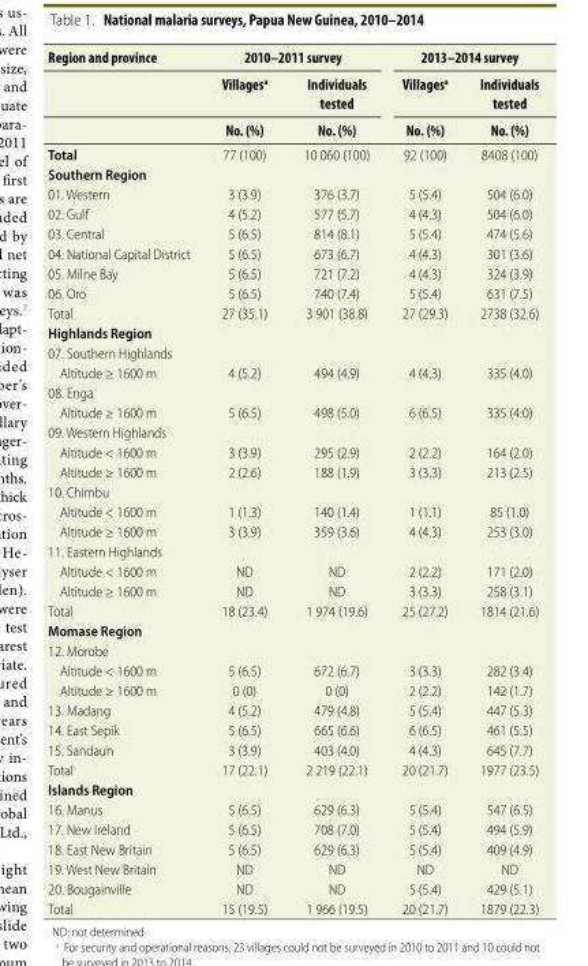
<table><thead><tr><td rowspan="3">Region and province</td><td colspan="2">2010–2011 survey</td><td colspan="2">2013–2014 survey</td></tr><tr><td rowspan="2">Villages<sup>a</sup> No. (%)</td><td rowspan="2">Individuals tested No. (%)</td><td rowspan="2">Villages<sup>a</sup> No. (%)</td><td rowspan="2">Individuals tested No. (%)</td></tr><tr></tr></thead><tbody><tr><td>Total</td><td>77 (100)</td><td>10 060 (100)</td><td>92 (100)</td><td>8408 (100)</td></tr><tr><td colspan="5">Southern Region</td></tr><tr><td>01. Western</td><td>3 (3.9)</td><td>376 (3.7)</td><td>5 (5.4)</td><td>504 (6.0)</td></tr><tr><td>02. Gulf</td><td>4 (5.2)</td><td>577 (5.7)</td><td>4 (4.3)</td><td>504 (6.0)</td></tr><tr><td>03. Central</td><td>5 (6.5)</td><td>814 (8.1)</td><td>5 (5.4)</td><td>474 (5.6)</td></tr><tr><td>04. National Capital District</td><td>5 (6.5)</td><td>673 (6.7)</td><td>4 (4.3)</td><td>301 (3.6)</td></tr><tr><td>05. Milne Bay</td><td>5 (6.5)</td><td>721 (7.2)</td><td>4 (4.3)</td><td>324 (3.9)</td></tr><tr><td>06. Oro</td><td>5 (6.5)</td><td>740 (7.4)</td><td>5 (5.4)</td><td>631 (7.5)</td></tr><tr><td>Total</td><td>27 (35.1)</td><td>3 901 (38.8)</td><td>27 (29.3)</td><td>2738 (32.6)</td></tr><tr><td colspan="5">Highlands Region</td></tr><tr><td colspan="5">07. Southern Highlands</td></tr><tr><td>Altitude ≥ 1600 m</td><td>4 (5.2)</td><td>494 (4.9)</td><td>4 (4.3)</td><td>335 (4.0)</td></tr><tr><td colspan="5">08. Enga</td></tr><tr><td>Altitude ≥ 1600 m</td><td>5 (6.5)</td><td>498 (5.0)</td><td>6 (6.5)</td><td>335 (4.0)</td></tr><tr><td colspan="5">09. Western Highlands</td></tr><tr><td>Altitude &lt; 1600 m</td><td>3 (3.9)</td><td>295 (2.9)</td><td>2 (2.2)</td><td>164 (2.0)</td></tr><tr><td>Altitude ≥ 1600 m</td><td>2 (2.6)</td><td>188 (1.9)</td><td>3 (3.3)</td><td>213 (2.5)</td></tr><tr><td colspan="5">10. Chimbu</td></tr><tr><td>Altitude &lt; 1600 m</td><td>1 (1.3)</td><td>140 (1.4)</td><td>1 (1.1)</td><td>85 (1.0)</td></tr><tr><td>Altitude ≥ 1600 m</td><td>3 (3.9)</td><td>359 (3.6)</td><td>4 (4.3)</td><td>253 (3.0)</td></tr><tr><td colspan="5">11. Eastern Highlands</td></tr><tr><td>Altitude &lt; 1600 m</td><td>ND</td><td>ND</td><td>2 (2.2)</td><td>171 (2.0)</td></tr><tr><td>Altitude ≥ 1600 m</td><td>ND</td><td>ND</td><td>3 (3.3)</td><td>258 (3.1)</td></tr><tr><td>Total</td><td>18 (23.4)</td><td>1 974 (19.6)</td><td>25 (27.2)</td><td>1814 (21.6)</td></tr><tr><td colspan="5">Momase Region</td></tr><tr><td colspan="5">12. Morobe</td></tr><tr><td>Altitude &lt; 1600 m</td><td>5 (6.5)</td><td>672 (6.7)</td><td>3 (3.3)</td><td>282 (3.4)</td></tr><tr><td>Altitude ≥ 1600 m</td><td>0 (0)</td><td>0 (0)</td><td>2 (2.2)</td><td>142 (1.7)</td></tr><tr><td>13. Madang</td><td>4 (5.2)</td><td>479 (4.8)</td><td>5 (5.4)</td><td>447 (5.3)</td></tr><tr><td>14. East Sepik</td><td>5 (6.5)</td><td>665 (6.6)</td><td>6 (6.5)</td><td>461 (5.5)</td></tr><tr><td>15. Sandaun</td><td>3 (3.9)</td><td>403 (4.0)</td><td>4 (4.3)</td><td>645 (7.7)</td></tr><tr><td>Total</td><td>17 (22.1)</td><td>2 219 (22.1)</td><td>20 (21.7)</td><td>1977 (23.5)</td></tr><tr><td colspan="5">Islands Region</td></tr><tr><td>16. Manus</td><td>5 (6.5)</td><td>629 (6.3)</td><td>5 (5.4)</td><td>547 (6.5)</td></tr><tr><td>17. New Ireland</td><td>5 (6.5)</td><td>708 (7.0)</td><td>5 (5.4)</td><td>494 (5.9)</td></tr><tr><td>18. East New Britain</td><td>5 (6.5)</td><td>629 (6.3)</td><td>5 (5.4)</td><td>409 (4.9)</td></tr><tr><td>19. West New Britain</td><td>ND</td><td>ND</td><td>ND</td><td>ND</td></tr><tr><td>20. Bougainville</td><td>ND</td><td>ND</td><td>5 (5.4)</td><td>429 (5.1)</td></tr><tr><td>Total</td><td>15 (19.5)</td><td>1 966 (19.5)</td><td>20 (21.7)</td><td>1879 (22.3)</td></tr></tbody></table>